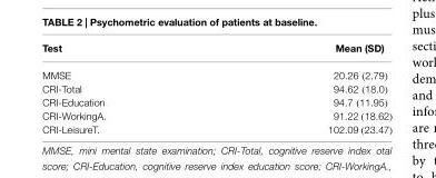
<table><thead><tr><td>Test</td><td>Mean (SD)</td></tr></thead><tbody><tr><td>MMSE</td><td>20.26 (2.79)</td></tr><tr><td>CRI-Total</td><td>94.62 (18.0)</td></tr><tr><td>CRI-Education</td><td>94.7 (11.95)</td></tr><tr><td>CRI-WorkingA.</td><td>91.22 (18.62)</td></tr><tr><td>CRI-LeisureT.</td><td>102.09 (23.47)</td></tr></tbody></table>